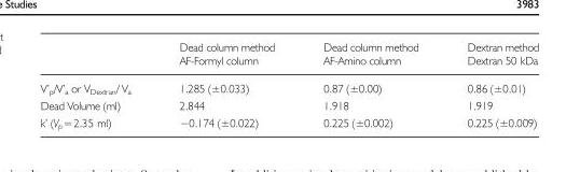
<table><thead><tr><td rowspan="2"></td><td rowspan="2">Dead column method AF-Formyl column</td><td rowspan="2">Dead column method AF-Amino column</td><td rowspan="2">Dextran method Dextran 50 kDa</td></tr><tr></tr></thead><tbody><tr><td>V’<sub>p</sub>/V’<sub>a</sub> or V<sub>Dextran</sub>/ V<sub>a</sub></td><td>1.285 (±0.033)</td><td>0.87 (±0.00)</td><td>0.86 (±0.01)</td></tr><tr><td>Dead Volume (ml)</td><td>2.844</td><td>1.918</td><td>1.919</td></tr><tr><td>k’ (V<sub>p</sub>=2.35 ml)</td><td>−0.174 (±0.022)</td><td>0.225 (±0.002)</td><td>0.225 (±0.009)</td></tr></tbody></table>